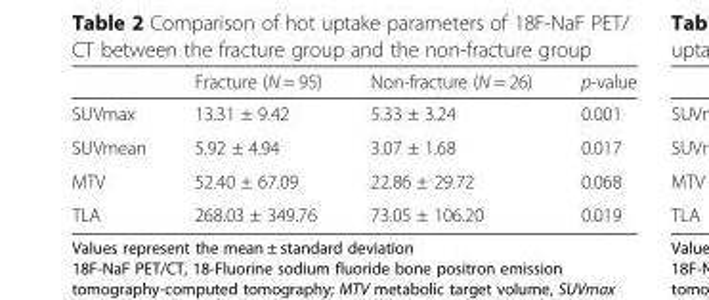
<table><thead><tr><td></td><td>Fracture (N = 95)</td><td>Non-fracture (N = 26)</td><td>p-value</td></tr></thead><tbody><tr><td>SUVmax</td><td>13.31 ± 9.42</td><td>5.33 ± 3.24</td><td>0.001</td></tr><tr><td>SUVmean</td><td>5.92 ± 4.94</td><td>3.07 ± 1.68</td><td>0.017</td></tr><tr><td>MTV</td><td>52.40 ± 67.09</td><td>22.86 ± 29.72</td><td>0.068</td></tr><tr><td>TLA</td><td>268.03 ± 349.76</td><td>73.05 ± 106.20</td><td>0.019</td></tr></tbody></table>